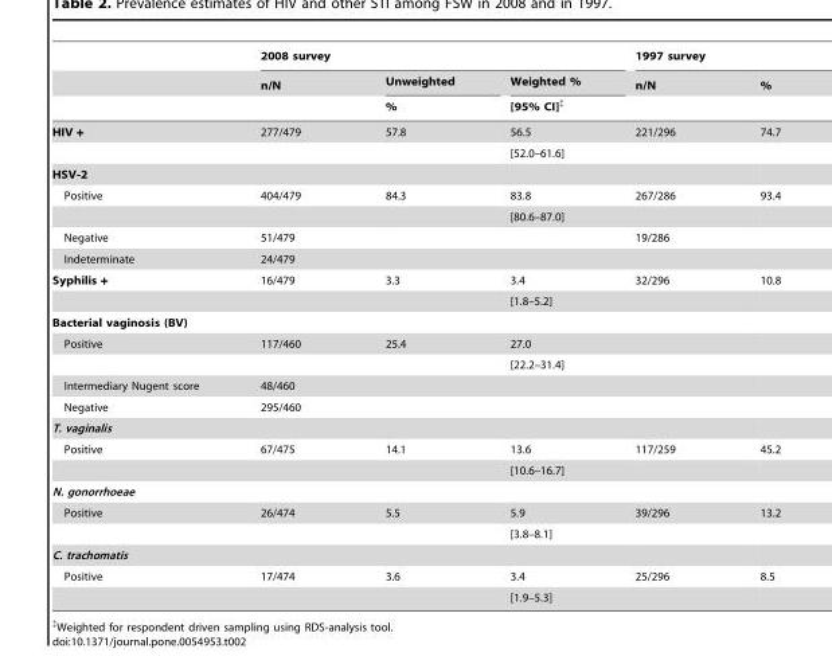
<table><thead><tr><td rowspan="3"></td><td colspan="3">2008 survey</td><td colspan="2">1997 survey</td></tr><tr><td rowspan="2">n/N</td><td rowspan="2">Unweighted %</td><td rowspan="2">Weighted % [95% CI]‡</td><td rowspan="2">n/N</td><td rowspan="2">%</td></tr><tr></tr></thead><tbody><tr><td rowspan="2">HIV +</td><td>277/479</td><td>57.8</td><td>56.5</td><td>221/296</td><td>74.7</td></tr><tr><td></td><td></td><td>[52.0–61.6]</td><td></td><td></td></tr><tr><td colspan="6">HSV-2</td></tr><tr><td rowspan="2">Positive</td><td>404/479</td><td>84.3</td><td>83.8</td><td>267/286</td><td>93.4</td></tr><tr><td></td><td></td><td>[80.6–87.0]</td><td></td><td></td></tr><tr><td>Negative</td><td>51/479</td><td></td><td></td><td>19/286</td><td></td></tr><tr><td>Indeterminate</td><td>24/479</td><td></td><td></td><td></td><td></td></tr><tr><td rowspan="2">Syphilis +</td><td>16/479</td><td>3.3</td><td>3.4</td><td>32/296</td><td>10.8</td></tr><tr><td></td><td></td><td>[1.8–5.2]</td><td></td><td></td></tr><tr><td colspan="6">Bacterial vaginosis (BV)</td></tr><tr><td rowspan="2">Positive</td><td>117/460</td><td>25.4</td><td>27.0</td><td></td><td></td></tr><tr><td></td><td></td><td>[22.2–31.4]</td><td></td><td></td></tr><tr><td>Intermediary Nugent score</td><td>48/460</td><td></td><td></td><td></td><td></td></tr><tr><td>Negative</td><td>295/460</td><td></td><td></td><td></td><td></td></tr><tr><td colspan="6">T. vaginalis</td></tr><tr><td rowspan="2">Positive</td><td>67/475</td><td>14.1</td><td>13.6</td><td>117/259</td><td>45.2</td></tr><tr><td></td><td></td><td>[10.6–16.7]</td><td></td><td></td></tr><tr><td colspan="6">N. gonorrhoeae</td></tr><tr><td rowspan="2">Positive</td><td>26/474</td><td>5.5</td><td>5.9</td><td>39/296</td><td>13.2</td></tr><tr><td></td><td></td><td>[3.8–8.1]</td><td></td><td></td></tr><tr><td colspan="6">C. trachomatis</td></tr><tr><td rowspan="2">Positive</td><td>17/474</td><td>3.6</td><td>3.4</td><td>25/296</td><td>8.5</td></tr><tr><td></td><td></td><td>[1.9–5.3]</td><td></td><td></td></tr></tbody></table>